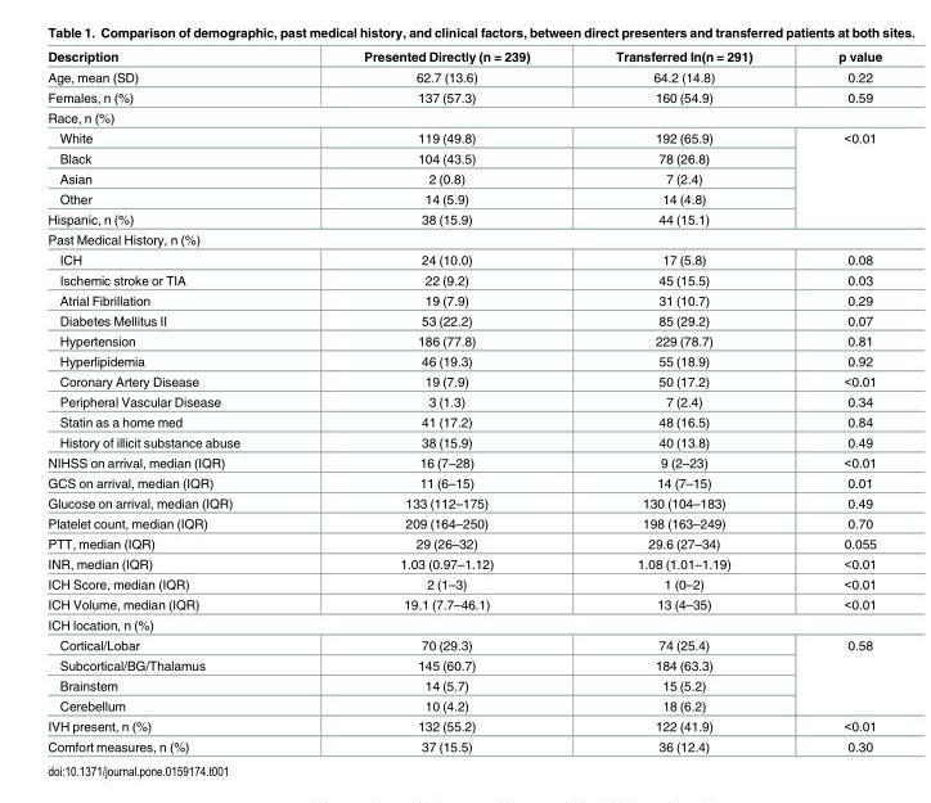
<table><thead><tr><td>Description</td><td>Presented Directly (n = 239)</td><td>Transferred In(n = 291)</td><td>p value</td></tr></thead><tbody><tr><td>Age, mean (SD)</td><td>62.7 (13.6)</td><td>64.2 (14.8)</td><td>0.22</td></tr><tr><td>Females, n (%)</td><td>137 (57.3)</td><td>160 (54.9)</td><td>0.59</td></tr><tr><td colspan="4">Race, n (%)</td></tr><tr><td>White</td><td>119 (49.8)</td><td>192 (65.9)</td><td rowspan="5">&lt;0.01</td></tr><tr><td>Black</td><td>104 (43.5)</td><td>78 (26.8)</td></tr><tr><td>Asian</td><td>2 (0.8)</td><td>7 (2.4)</td></tr><tr><td>Other</td><td>14 (5.9)</td><td>14 (4.8)</td></tr><tr><td>Hispanic, n (%)</td><td>38 (15.9)</td><td>44 (15.1)</td></tr><tr><td colspan="4">Past Medical History, n (%)</td></tr><tr><td>ICH</td><td>24 (10.0)</td><td>17 (5.8)</td><td>0.08</td></tr><tr><td>Ischemic stroke or TIA</td><td>22 (9.2)</td><td>45 (15.5)</td><td>0.03</td></tr><tr><td>Atrial Fibrillation</td><td>19 (7.9)</td><td>31 (10.7)</td><td>0.29</td></tr><tr><td>Diabetes Mellitus II</td><td>53 (22.2)</td><td>85 (29.2)</td><td>0.07</td></tr><tr><td>Hypertension</td><td>186 (77.8)</td><td>229 (78.7)</td><td>0.81</td></tr><tr><td>Hyperlipidemia</td><td>46 (19.3)</td><td>55 (18.9)</td><td>0.92</td></tr><tr><td>Coronary Artery Disease</td><td>19 (7.9)</td><td>50 (17.2)</td><td>&lt;0.01</td></tr><tr><td>Peripheral Vascular Disease</td><td>3 (1.3)</td><td>7 (2.4)</td><td>0.34</td></tr><tr><td>Statin as a home med</td><td>41 (17.2)</td><td>48 (16.5)</td><td>0.84</td></tr><tr><td>History of illicit substance abuse</td><td>38 (15.9)</td><td>40 (13.8)</td><td>0.49</td></tr><tr><td>NIHSS on arrival, median (IQR)</td><td>16 (7–28)</td><td>9 (2–23)</td><td>&lt;0.01</td></tr><tr><td>GCS on arrival, median (IQR)</td><td>11 (6–15)</td><td>14 (7–15)</td><td>0.01</td></tr><tr><td>Glucose on arrival, median (IQR)</td><td>133 (112–175)</td><td>130 (104–183)</td><td>0.49</td></tr><tr><td>Platelet count, median (IQR)</td><td>209 (164–250)</td><td>198 (163–249)</td><td>0.70</td></tr><tr><td>PTT, median (IQR)</td><td>29 (26–32)</td><td>29.6 (27–34)</td><td>0.055</td></tr><tr><td>INR, median (IQR)</td><td>1.03 (0.97–1.12)</td><td>1.08 (1.01–1.19)</td><td>&lt;0.01</td></tr><tr><td>ICH Score, median (IQR)</td><td>2 (1–3)</td><td>1 (0–2)</td><td>&lt;0.01</td></tr><tr><td>ICH Volume, median (IQR)</td><td>19.1 (7.7–46.1)</td><td>13 (4–35)</td><td>&lt;0.01</td></tr><tr><td colspan="4">ICH location, n (%)</td></tr><tr><td>Cortical/Lobar</td><td>70 (29.3)</td><td>74 (25.4)</td><td rowspan="4">0.58</td></tr><tr><td>Subcortical/BG/Thalamus</td><td>145 (60.7)</td><td>184 (63.3)</td></tr><tr><td>Brainstem</td><td>14 (5.7)</td><td>15 (5.2)</td></tr><tr><td>Cerebellum</td><td>10 (4.2)</td><td>18 (6.2)</td></tr><tr><td>IVH present, n (%)</td><td>132 (55.2)</td><td>122 (41.9)</td><td>&lt;0.01</td></tr><tr><td>Comfort measures, n (%)</td><td>37 (15.5)</td><td>36 (12.4)</td><td>0.30</td></tr></tbody></table>